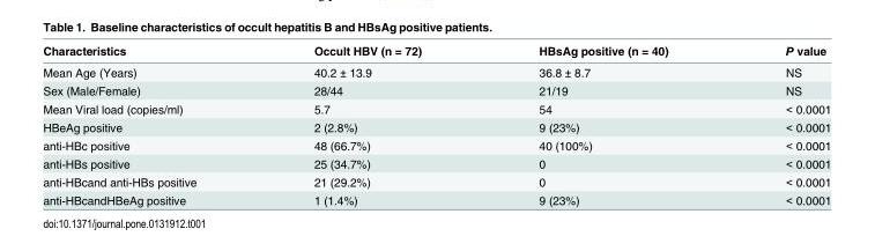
<table><thead><tr><td>Characteristics</td><td>Occult HBV (n = 72)</td><td>HBsAg positive (n = 40)</td><td>P value</td></tr></thead><tbody><tr><td>Mean Age (Years)</td><td>40.2 ± 13.9</td><td>36.8 ± 8.7</td><td>NS</td></tr><tr><td>Sex (Male/Female)</td><td>28/44</td><td>21/19</td><td>NS</td></tr><tr><td>Mean Viral load (copies/ml)</td><td>5.7</td><td>54</td><td>&lt; 0.0001</td></tr><tr><td>HBeAg positive</td><td>2 (2.8%)</td><td>9 (23%)</td><td>&lt; 0.0001</td></tr><tr><td>anti-HBc positive</td><td>48 (66.7%)</td><td>40 (100%)</td><td>&lt; 0.0001</td></tr><tr><td>anti-HBs positive</td><td>25 (34.7%)</td><td>0</td><td>&lt; 0.0001</td></tr><tr><td>anti-HBcand anti-HBs positive</td><td>21 (29.2%)</td><td>0</td><td>&lt; 0.0001</td></tr><tr><td>anti-HBcandHBeAg positive</td><td>1 (1.4%)</td><td>9 (23%)</td><td>&lt; 0.0001</td></tr></tbody></table>